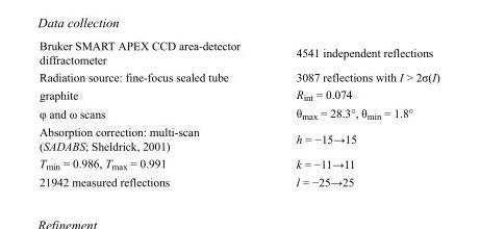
<table><tbody><tr><td>Bruker SMART APEX CCD area-detector diffractometer</td><td>4541 independent reflections</td></tr><tr><td>Radiation source: fine-focus sealed tube</td><td>3087 reflections with I &gt; 2σ(I)</td></tr><tr><td>graphite</td><td>R<sub>int</sub> = 0.074</td></tr><tr><td>φ and ω scans</td><td>θ<sub>max</sub> = 28.3°, θ<sub>min</sub> = 1.8°</td></tr><tr><td>Absorption correction: multi-scan (SADABS; Sheldrick, 2001)</td><td>h = −15→15</td></tr><tr><td>T<sub>min</sub> = 0.986, T<sub>max</sub> = 0.991</td><td>k = −11→11</td></tr><tr><td>21942 measured reflections</td><td>l = −25→25</td></tr></tbody></table>